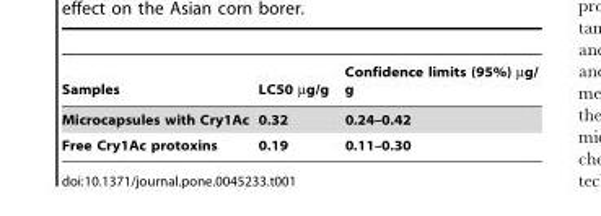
<table><thead><tr><td>Samples</td><td>LC50 µg/g</td><td>Confidence limits (95%) µg/ g</td></tr></thead><tbody><tr><td>Microcapsules with Cry1Ac</td><td>0.32</td><td>0.24–0.42</td></tr><tr><td>Free Cry1Ac protoxins</td><td>0.19</td><td>0.11–0.30</td></tr></tbody></table>